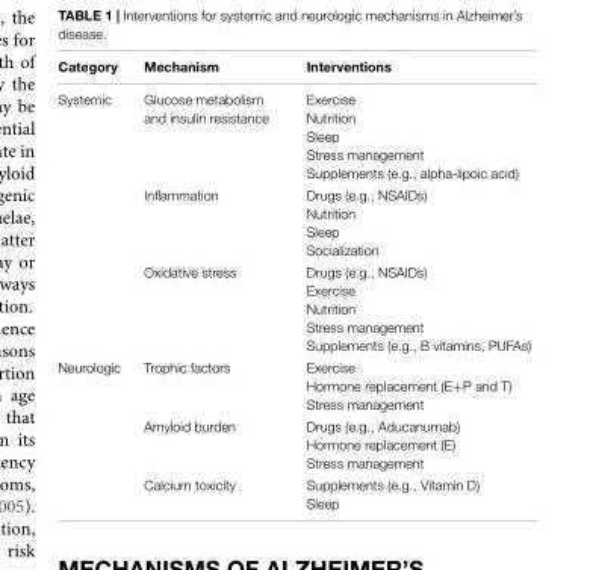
<table><thead><tr><td>Category</td><td>Mechanism</td><td>Interventions</td></tr></thead><tbody><tr><td rowspan="3">Systemic</td><td>Glucose metabolism and insulin resistance</td><td>Exercise Nutrition Sleep Stress management Supplements (e.g., alpha-lipoic acid)</td></tr><tr><td>Inflammation</td><td>Drugs (e.g., NSAIDs) Nutrition Sleep Socialization</td></tr><tr><td>Oxidative stress</td><td>Drugs (e.g., NSAIDs) Exercise Nutrition Stress management Supplements (e.g., B vitamins, PUFAs)</td></tr><tr><td rowspan="3">Neurologic</td><td>Trophic factors</td><td>Exercise Hormone replacement (E+P and T) Stress management</td></tr><tr><td>Amyloid burden</td><td>Drugs (e.g., Aducanumab) Hormone replacement (E) Stress management</td></tr><tr><td>Calcium toxicity</td><td>Supplements (e.g., Vitamin D) Sleep</td></tr></tbody></table>